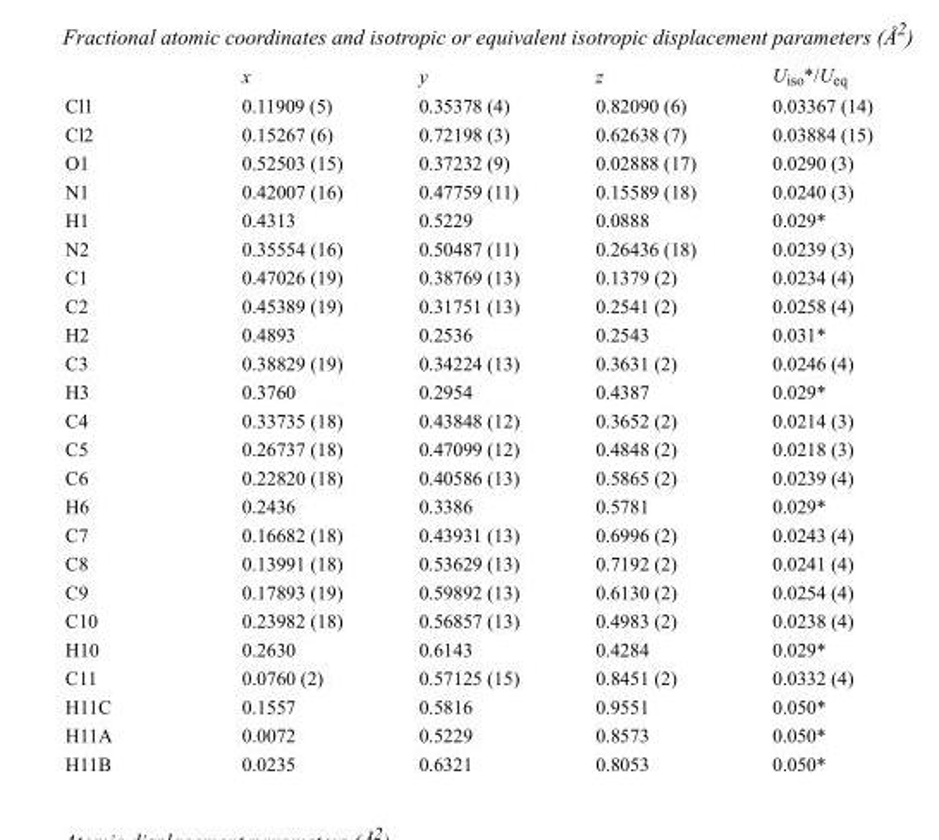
<table><thead><tr><td></td><td>x</td><td>y</td><td>z</td><td>U<sub>iso</sub>*/U<sub>eq</sub></td></tr></thead><tbody><tr><td>Cl1</td><td>0.11909 (5)</td><td>0.35378 (4)</td><td>0.82090 (6)</td><td>0.03367 (14)</td></tr><tr><td>Cl2</td><td>0.15267 (6)</td><td>0.72198 (3)</td><td>0.62638 (7)</td><td>0.03884 (15)</td></tr><tr><td>O1</td><td>0.52503 (15)</td><td>0.37232 (9)</td><td>0.02888 (17)</td><td>0.0290 (3)</td></tr><tr><td>N1</td><td>0.42007 (16)</td><td>0.47759 (11)</td><td>0.15589 (18)</td><td>0.0240 (3)</td></tr><tr><td>H1</td><td>0.4313</td><td>0.5229</td><td>0.0888</td><td>0.029*</td></tr><tr><td>N2</td><td>0.35554 (16)</td><td>0.50487 (11)</td><td>0.26436 (18)</td><td>0.0239 (3)</td></tr><tr><td>C1</td><td>0.47026 (19)</td><td>0.38769 (13)</td><td>0.1379 (2)</td><td>0.0234 (4)</td></tr><tr><td>C2</td><td>0.45389 (19)</td><td>0.31751 (13)</td><td>0.2541 (2)</td><td>0.0258 (4)</td></tr><tr><td>H2</td><td>0.4893</td><td>0.2536</td><td>0.2543</td><td>0.031*</td></tr><tr><td>C3</td><td>0.38829 (19)</td><td>0.34224 (13)</td><td>0.3631 (2)</td><td>0.0246 (4)</td></tr><tr><td>H3</td><td>0.3760</td><td>0.2954</td><td>0.4387</td><td>0.029*</td></tr><tr><td>C4</td><td>0.33735 (18)</td><td>0.43848 (12)</td><td>0.3652 (2)</td><td>0.0214 (3)</td></tr><tr><td>C5</td><td>0.26737 (18)</td><td>0.47099 (12)</td><td>0.4848 (2)</td><td>0.0218 (3)</td></tr><tr><td>C6</td><td>0.22820 (18)</td><td>0.40586 (13)</td><td>0.5865 (2)</td><td>0.0239 (4)</td></tr><tr><td>H6</td><td>0.2436</td><td>0.3386</td><td>0.5781</td><td>0.029*</td></tr><tr><td>C7</td><td>0.16682 (18)</td><td>0.43931 (13)</td><td>0.6996 (2)</td><td>0.0243 (4)</td></tr><tr><td>C8</td><td>0.13991 (18)</td><td>0.53629 (13)</td><td>0.7192 (2)</td><td>0.0241 (4)</td></tr><tr><td>C9</td><td>0.17893 (19)</td><td>0.59892 (13)</td><td>0.6130 (2)</td><td>0.0254 (4)</td></tr><tr><td>C10</td><td>0.23982 (18)</td><td>0.56857 (13)</td><td>0.4983 (2)</td><td>0.0238 (4)</td></tr><tr><td>H10</td><td>0.2630</td><td>0.6143</td><td>0.4284</td><td>0.029*</td></tr><tr><td>C11</td><td>0.0760 (2)</td><td>0.57125 (15)</td><td>0.8451 (2)</td><td>0.0332 (4)</td></tr><tr><td>H11C</td><td>0.1557</td><td>0.5816</td><td>0.9551</td><td>0.050*</td></tr><tr><td>H11A</td><td>0.0072</td><td>0.5229</td><td>0.8573</td><td>0.050*</td></tr><tr><td>H11B</td><td>0.0235</td><td>0.6321</td><td>0.8053</td><td>0.050*</td></tr></tbody></table>